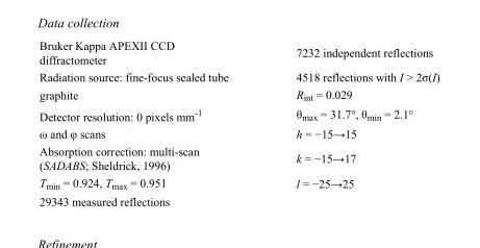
<table><tbody><tr><td>Bruker Kappa APEXII CCD diffractometer</td><td>7232 independent reflections</td></tr><tr><td>Radiation source: fine-focus sealed tube</td><td>4518 reflections with I &gt; 2σ(I)</td></tr><tr><td>graphite</td><td>R<sub>int</sub> = 0.029</td></tr><tr><td>Detector resolution: 0 pixels mm<sup>-1</sup></td><td>θ<sub>max</sub> = 31.7°, θ<sub>min</sub> = 2.1°</td></tr><tr><td>ω and φ scans</td><td>h = −15→15</td></tr><tr><td>Absorption correction: multi-scan (SADABS; Sheldrick, 1996)</td><td>k = −15→17</td></tr><tr><td>T<sub>min</sub> = 0.924, T<sub>max</sub> = 0.951</td><td>l = −25→25</td></tr><tr><td>29343 measured reflections</td><td></td></tr></tbody></table>